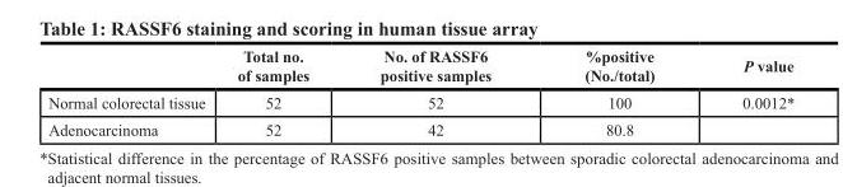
<table><thead><tr><td></td><td>Total no. of samples</td><td>No. of RASSF6 positive samples</td><td>%positive (No./total)</td><td>P value</td></tr></thead><tbody><tr><td>Normal colorectal tissue</td><td>52</td><td>52</td><td>100</td><td>0.0012*</td></tr><tr><td>Adenocarcinoma</td><td>52</td><td>42</td><td>80.8</td><td></td></tr></tbody></table>